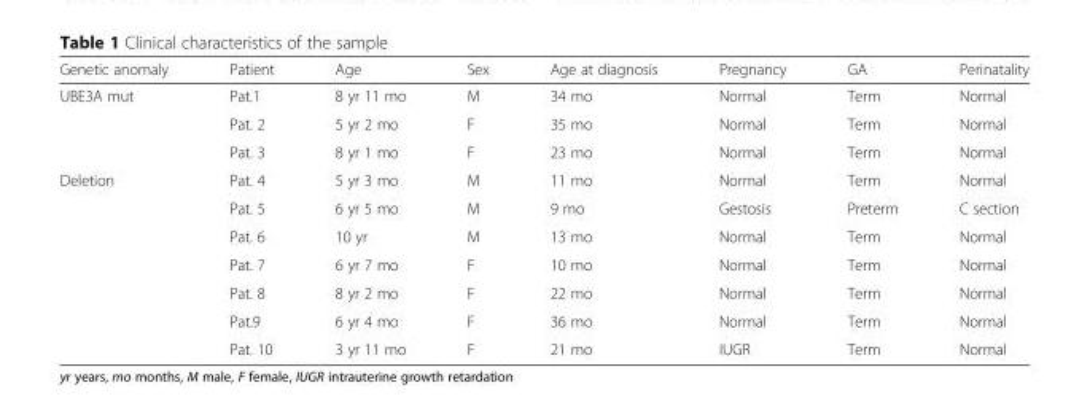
<table><thead><tr><td>Genetic anomaly</td><td>Patient</td><td>Age</td><td>Sex</td><td>Age at diagnosis</td><td>Pregnancy</td><td>GA</td><td>Perinatality</td></tr></thead><tbody><tr><td rowspan="3">UBE3A mut</td><td>Pat.1</td><td>8 yr 11 mo</td><td>M</td><td>34 mo</td><td>Normal</td><td>Term</td><td>Normal</td></tr><tr><td>Pat. 2</td><td>5 yr 2 mo</td><td>F</td><td>35 mo</td><td>Normal</td><td>Term</td><td>Normal</td></tr><tr><td>Pat. 3</td><td>8 yr 1 mo</td><td>F</td><td>23 mo</td><td>Normal</td><td>Term</td><td>Normal</td></tr><tr><td rowspan="7">Deletion</td><td>Pat. 4</td><td>5 yr 3 mo</td><td>M</td><td>11 mo</td><td>Normal</td><td>Term</td><td>Normal</td></tr><tr><td>Pat. 5</td><td>6 yr 5 mo</td><td>M</td><td>9 mo</td><td>Gestosis</td><td>Preterm</td><td>C section</td></tr><tr><td>Pat. 6</td><td>10 yr</td><td>M</td><td>13 mo</td><td>Normal</td><td>Term</td><td>Normal</td></tr><tr><td>Pat. 7</td><td>6 yr 7 mo</td><td>F</td><td>10 mo</td><td>Normal</td><td>Term</td><td>Normal</td></tr><tr><td>Pat. 8</td><td>8 yr 2 mo</td><td>F</td><td>22 mo</td><td>Normal</td><td>Term</td><td>Normal</td></tr><tr><td>Pat.9</td><td>6 yr 4 mo</td><td>F</td><td>36 mo</td><td>Normal</td><td>Term</td><td>Normal</td></tr><tr><td>Pat. 10</td><td>3 yr 11 mo</td><td>F</td><td>21 mo</td><td>IUGR</td><td>Term</td><td>Normal</td></tr></tbody></table>